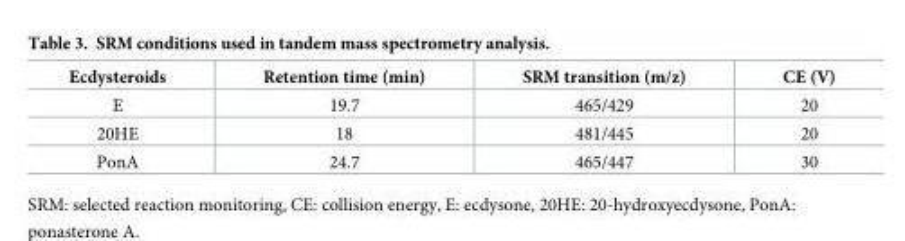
<table><thead><tr><td>Ecdysteroids</td><td>Retention time (min)</td><td>SRM transition (m/z)</td><td>CE (V)</td></tr></thead><tbody><tr><td>E</td><td>19.7</td><td>465/429</td><td>20</td></tr><tr><td>20HE</td><td>18</td><td>481/445</td><td>20</td></tr><tr><td>PonA</td><td>24.7</td><td>465/447</td><td>30</td></tr></tbody></table>